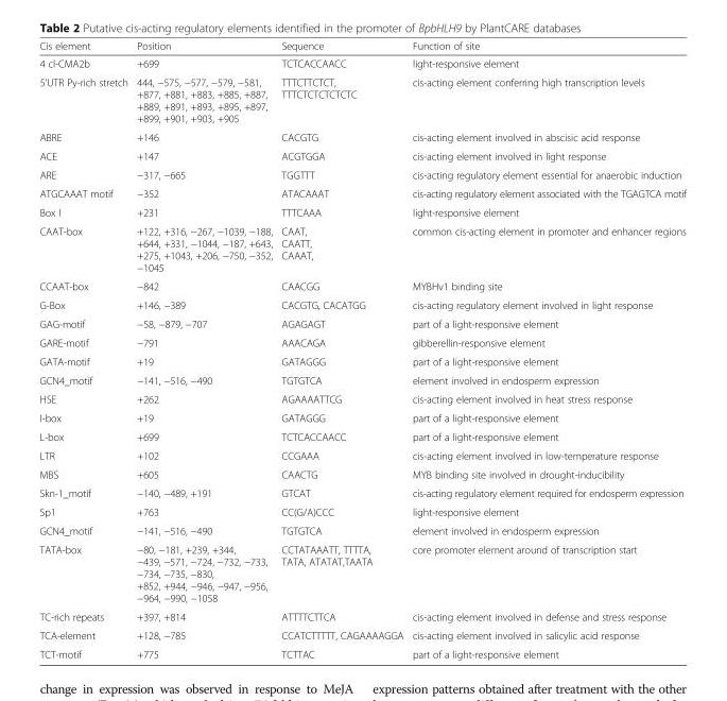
<table><thead><tr><td>Cis element</td><td>Position</td><td>Sequence</td><td>Function of site</td></tr></thead><tbody><tr><td>4 cl-CMA2b</td><td>+699</td><td>TCTCACCAACC</td><td>light-responsive element</td></tr><tr><td>5’UTR Py-rich stretch</td><td>444, −575, −577, −579, −581, +877, +881, +883, +885, +887, +889, +891, +893, +895, +897, +899, +901, +903, +905</td><td>TTTCTTCTCT, TTTCTCTCTCTCTC</td><td>cis-acting element conferring high transcription levels</td></tr><tr><td>ABRE</td><td>+146</td><td>CACGTG</td><td>cis-acting element involved in abscisic acid response</td></tr><tr><td>ACE</td><td>+147</td><td>ACGTGGA</td><td>cis-acting element involved in light response</td></tr><tr><td>ARE</td><td>−317, −665</td><td>TGGTTT</td><td>cis-acting regulatory element essential for anaerobic induction</td></tr><tr><td>ATGCAAAT motif</td><td>−352</td><td>ATACAAAT</td><td>cis-acting regulatory element associated with the TGAGTCA motif</td></tr><tr><td>Box I</td><td>+231</td><td>TTTCAAA</td><td>light-responsive element</td></tr><tr><td>CAAT-box</td><td>+122, +316, −267, −1039, −188, +644, +331, −1044, −187, +643, +275, +1043, +206, −750, −352, −1045</td><td>CAAT, CAATT, CAAAT,</td><td>common cis-acting element in promoter and enhancer regions</td></tr><tr><td>CCAAT-box</td><td>−842</td><td>CAACGG</td><td>MYBHv1 binding site</td></tr><tr><td>G-Box</td><td>+146, −389</td><td>CACGTG, CACATGG</td><td>cis-acting regulatory element involved in light response</td></tr><tr><td>GAG-motif</td><td>−58, −879, −707</td><td>AGAGAGT</td><td>part of a light-responsive element</td></tr><tr><td>GARE-motif</td><td>−791</td><td>AAACAGA</td><td>gibberellin-responsive element</td></tr><tr><td>GATA-motif</td><td>+19</td><td>GATAGGG</td><td>part of a light-responsive element</td></tr><tr><td>GCN4_motif</td><td>−141, −516, −490</td><td>TGTGTCA</td><td>element involved in endosperm expression</td></tr><tr><td>HSE</td><td>+262</td><td>AGAAAATTCG</td><td>cis-acting element involved in heat stress response</td></tr><tr><td>I-box</td><td>+19</td><td>GATAGGG</td><td>part of a light-responsive element</td></tr><tr><td>L-box</td><td>+699</td><td>TCTCACCAACC</td><td>part of a light-responsive element</td></tr><tr><td>LTR</td><td>+102</td><td>CCGAAA</td><td>cis-acting element involved in low-temperature response</td></tr><tr><td>MBS</td><td>+605</td><td>CAACTG</td><td>MYB binding site involved in drought-inducibility</td></tr><tr><td>Skn-1_motif</td><td>−140, −489, +191</td><td>GTCAT</td><td>cis-acting regulatory element required for endosperm expression</td></tr><tr><td>Sp1</td><td>+763</td><td>CC(G/A)CCC</td><td>light-responsive element</td></tr><tr><td>GCN4_motif</td><td>−141, −516, −490</td><td>TGTGTCA</td><td>element involved in endosperm expression</td></tr><tr><td>TATA-box</td><td>−80, −181, +239, +344, −439, −571, −724, −732, −733, −734, −735, −830, +852, +944, −946, −947, −956, −964, −990, −1058</td><td>CCTATAAATT, TTTTA, TATA, ATATAT,TAATA</td><td>core promoter element around of transcription start</td></tr><tr><td>TC-rich repeats</td><td>+397, +814</td><td>ATTTTCTTCA</td><td>cis-acting element involved in defense and stress response</td></tr><tr><td>TCA-element</td><td>+128, −785</td><td>CCATCTTTTT, CAGAAAAGGA</td><td>cis-acting element involved in salicylic acid response</td></tr><tr><td>TCT-motif</td><td>+775</td><td>TCTTAC</td><td>part of a light-responsive element</td></tr></tbody></table>